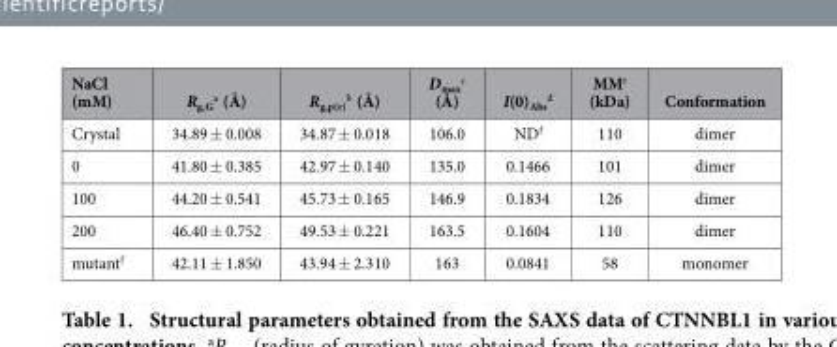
<table><thead><tr><td>NaCl (mM)</td><td>R<sub>g,G</sub> <sup>a</sup> (Å)</td><td>R<sub>g,p(r)</sub> <sup>b</sup> (Å)</td><td>D<sub>max</sub> <sup>c</sup> (Å)</td><td>I(0)<sub>Abs</sub> <sup>d</sup></td><td>MM<sup>e</sup> (kDa)</td><td>Conformation</td></tr></thead><tbody><tr><td>Crystal</td><td>34.89 ± 0.008</td><td>34.87 ± 0.018</td><td>106.0</td><td>ND<sup>f</sup></td><td>110</td><td>dimer</td></tr><tr><td>0</td><td>41.80 ± 0.385</td><td>42.97 ± 0.140</td><td>135.0</td><td>0.1466</td><td>101</td><td>dimer</td></tr><tr><td>100</td><td>44.20 ± 0.541</td><td>45.73 ± 0.165</td><td>146.9</td><td>0.1834</td><td>126</td><td>dimer</td></tr><tr><td>200</td><td>46.40 ± 0.752</td><td>49.53 ± 0.221</td><td>163.5</td><td>0.1604</td><td>110</td><td>dimer</td></tr><tr><td>mutant<sup>f</sup></td><td>42.11 ± 1.850</td><td>43.94 ± 2.310</td><td>163</td><td>0.0841</td><td>58</td><td>monomer</td></tr></tbody></table>